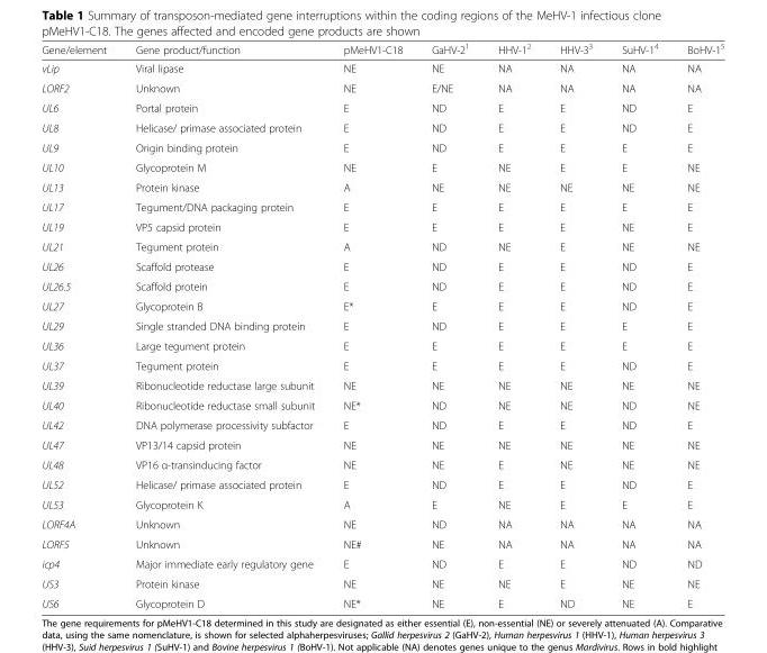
<table><thead><tr><td>Gene/element</td><td>Gene product/function</td><td>pMeHV1-C18</td><td>GaHV-2<sup>1</sup></td><td>HHV-1<sup>2</sup></td><td>HHV-3<sup>3</sup></td><td>SuHV-1<sup>4</sup></td><td>BoHV-1<sup>5</sup></td></tr></thead><tbody><tr><td>vLip</td><td>Viral lipase</td><td>NE</td><td>NE</td><td>NA</td><td>NA</td><td>NA</td><td>NA</td></tr><tr><td>LORF2</td><td>Unknown</td><td>NE</td><td>E/NE</td><td>NA</td><td>NA</td><td>NA</td><td>NA</td></tr><tr><td>UL6</td><td>Portal protein</td><td>E</td><td>ND</td><td>E</td><td>E</td><td>ND</td><td>E</td></tr><tr><td>UL8</td><td>Helicase/ primase associated protein</td><td>E</td><td>ND</td><td>E</td><td>E</td><td>ND</td><td>E</td></tr><tr><td>UL9</td><td>Origin binding protein</td><td>E</td><td>ND</td><td>E</td><td>E</td><td>E</td><td>E</td></tr><tr><td>UL10</td><td>Glycoprotein M</td><td>NE</td><td>E</td><td>NE</td><td>E</td><td>E</td><td>NE</td></tr><tr><td>UL13</td><td>Protein kinase</td><td>A</td><td>NE</td><td>NE</td><td>NE</td><td>NE</td><td>NE</td></tr><tr><td>UL17</td><td>Tegument/DNA packaging protein</td><td>E</td><td>E</td><td>E</td><td>E</td><td>E</td><td>E</td></tr><tr><td>UL19</td><td>VP5 capsid protein</td><td>E</td><td>E</td><td>E</td><td>E</td><td>NE</td><td>E</td></tr><tr><td>UL21</td><td>Tegument protein</td><td>A</td><td>ND</td><td>NE</td><td>E</td><td>NE</td><td>NE</td></tr><tr><td>UL26</td><td>Scaffold protease</td><td>E</td><td>ND</td><td>E</td><td>E</td><td>ND</td><td>E</td></tr><tr><td>UL26.5</td><td>Scaffold protein</td><td>E</td><td>ND</td><td>E</td><td>E</td><td>ND</td><td>E</td></tr><tr><td>UL27</td><td>Glycoprotein B</td><td>E*</td><td>E</td><td>E</td><td>E</td><td>ND</td><td>E</td></tr><tr><td>UL29</td><td>Single stranded DNA binding protein</td><td>E</td><td>ND</td><td>E</td><td>E</td><td>E</td><td>E</td></tr><tr><td>UL36</td><td>Large tegument protein</td><td>E</td><td>E</td><td>E</td><td>E</td><td>E</td><td>E</td></tr><tr><td>UL37</td><td>Tegument protein</td><td>E</td><td>E</td><td>E</td><td>E</td><td>ND</td><td>E</td></tr><tr><td>UL39</td><td>Ribonucleotide reductase large subunit</td><td>NE</td><td>NE</td><td>NE</td><td>NE</td><td>NE</td><td>NE</td></tr><tr><td>UL40</td><td>Ribonucleotide reductase small subunit</td><td>NE*</td><td>ND</td><td>NE</td><td>NE</td><td>ND</td><td>NE</td></tr><tr><td>UL42</td><td>DNA polymerase processivity subfactor</td><td>E</td><td>ND</td><td>E</td><td>E</td><td>ND</td><td>E</td></tr><tr><td>UL47</td><td>VP13/14 capsid protein</td><td>NE</td><td>NE</td><td>NE</td><td>NE</td><td>NE</td><td>NE</td></tr><tr><td>UL48</td><td>VP16 α-transinducing factor</td><td>NE</td><td>NE</td><td>E</td><td>NE</td><td>NE</td><td>NE</td></tr><tr><td>UL52</td><td>Helicase/ primase associated protein</td><td>E</td><td>ND</td><td>E</td><td>E</td><td>ND</td><td>E</td></tr><tr><td>UL53</td><td>Glycoprotein K</td><td>A</td><td>E</td><td>NE</td><td>E</td><td>E</td><td>E</td></tr><tr><td>LORF4A</td><td>Unknown</td><td>NE</td><td>ND</td><td>NA</td><td>NA</td><td>NA</td><td>NA</td></tr><tr><td>LORF5</td><td>Unknown</td><td>NE#</td><td>NE</td><td>NA</td><td>NA</td><td>NA</td><td>NA</td></tr><tr><td>icp4</td><td>Major immediate early regulatory gene</td><td>E</td><td>ND</td><td>E</td><td>E</td><td>ND</td><td>ND</td></tr><tr><td>US3</td><td>Protein kinase</td><td>NE</td><td>NE</td><td>NE</td><td>E</td><td>NE</td><td>NE</td></tr><tr><td>US6</td><td>Glycoprotein D</td><td>NE*</td><td>NE</td><td>E</td><td>ND</td><td>NE</td><td>E</td></tr></tbody></table>